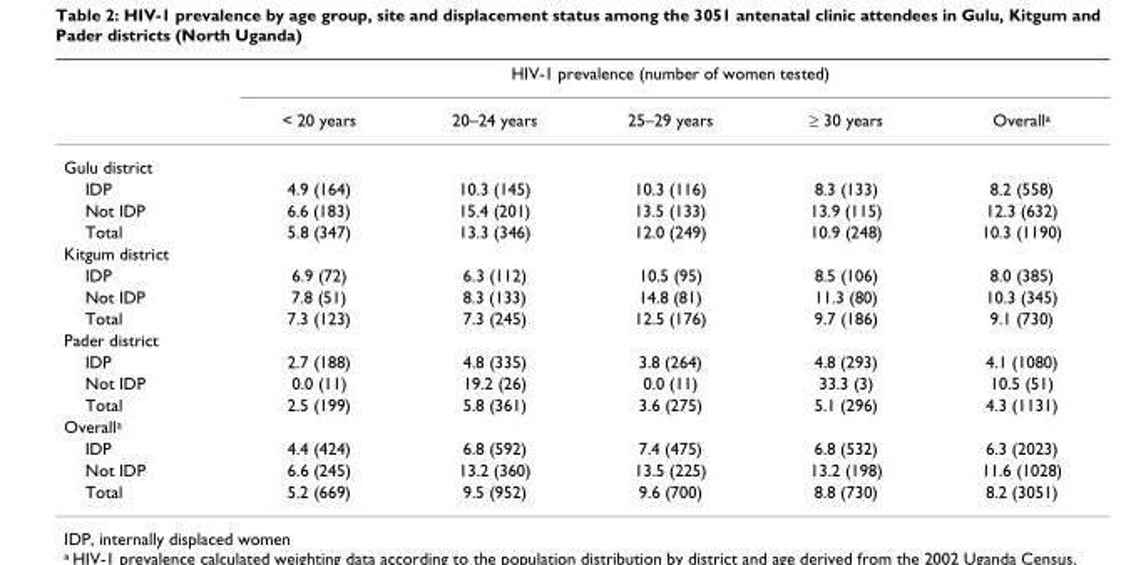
<table><thead><tr><td rowspan="2"></td><td colspan="5">HIV-1 prevalence (number of women tested)</td></tr><tr><td>&lt; 20 years</td><td>20–24 years</td><td>25–29 years</td><td>≥ 30 years</td><td>Overall<sup>a</sup></td></tr></thead><tbody><tr><td colspan="6">Gulu district</td></tr><tr><td>IDP</td><td>4.9 (164)</td><td>10.3 (145)</td><td>10.3 (116)</td><td>8.3 (133)</td><td>8.2 (558)</td></tr><tr><td>Not IDP</td><td>6.6 (183)</td><td>15.4 (201)</td><td>13.5 (133)</td><td>13.9 (115)</td><td>12.3 (632)</td></tr><tr><td>Total</td><td>5.8 (347)</td><td>13.3 (346)</td><td>12.0 (249)</td><td>10.9 (248)</td><td>10.3 (1190)</td></tr><tr><td colspan="6">Kitgum district</td></tr><tr><td>IDP</td><td>6.9 (72)</td><td>6.3 (112)</td><td>10.5 (95)</td><td>8.5 (106)</td><td>8.0 (385)</td></tr><tr><td>Not IDP</td><td>7.8 (51)</td><td>8.3 (133)</td><td>14.8 (81)</td><td>11.3 (80)</td><td>10.3 (345)</td></tr><tr><td>Total</td><td>7.3 (123)</td><td>7.3 (245)</td><td>12.5 (176)</td><td>9.7 (186)</td><td>9.1 (730)</td></tr><tr><td colspan="6">Pader district</td></tr><tr><td>IDP</td><td>2.7 (188)</td><td>4.8 (335)</td><td>3.8 (264)</td><td>4.8 (293)</td><td>4.1 (1080)</td></tr><tr><td>Not IDP</td><td>0.0 (11)</td><td>19.2 (26)</td><td>0.0 (11)</td><td>33.3 (3)</td><td>10.5 (51)</td></tr><tr><td>Total</td><td>2.5 (199)</td><td>5.8 (361)</td><td>3.6 (275)</td><td>5.1 (296)</td><td>4.3 (1131)</td></tr><tr><td colspan="6">Overall<sup>a</sup></td></tr><tr><td>IDP</td><td>4.4 (424)</td><td>6.8 (592)</td><td>7.4 (475)</td><td>6.8 (532)</td><td>6.3 (2023)</td></tr><tr><td>Not IDP</td><td>6.6 (245)</td><td>13.2 (360)</td><td>13.5 (225)</td><td>13.2 (198)</td><td>11.6 (1028)</td></tr><tr><td>Total</td><td>5.2 (669)</td><td>9.5 (952)</td><td>9.6 (700)</td><td>8.8 (730)</td><td>8.2 (3051)</td></tr></tbody></table>